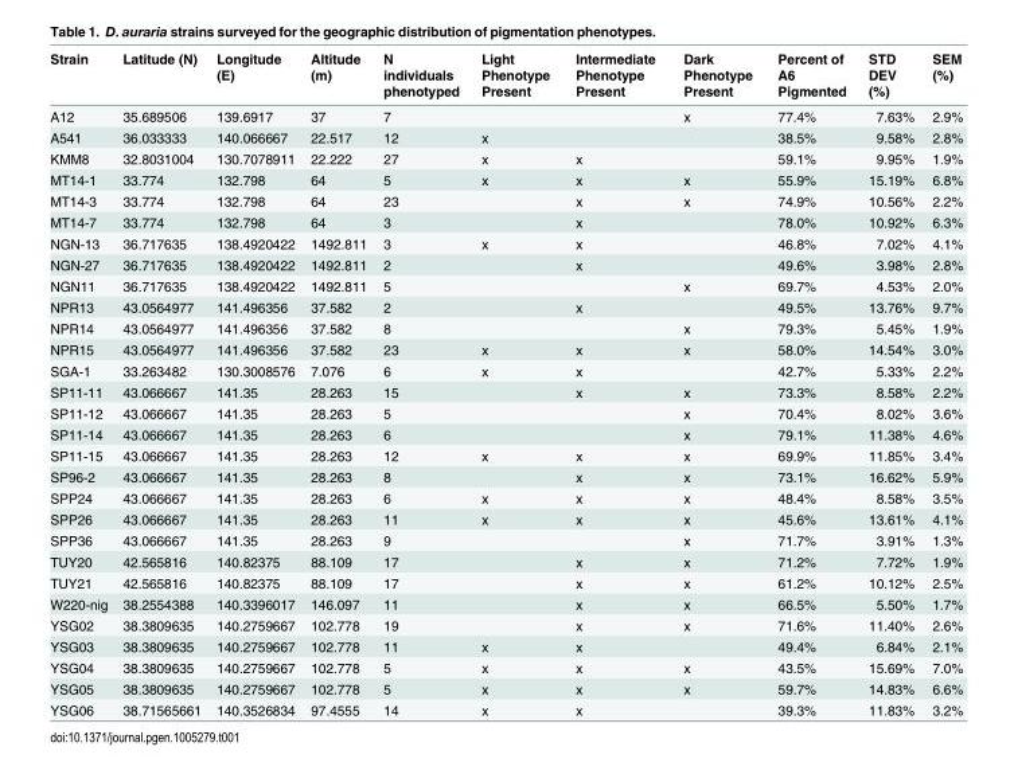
<table><thead><tr><td>Strain</td><td>Latitude (N)</td><td>Longitude (E)</td><td>Altitude (m)</td><td>N individuals phenotyped</td><td>Light Phenotype Present</td><td>Intermediate Phenotype Present</td><td>Dark Phenotype Present</td><td>Percent of A6 Pigmented</td><td>STD DEV (%)</td><td>SEM (%)</td></tr></thead><tbody><tr><td>A12</td><td>35.689506</td><td>139.6917</td><td>37</td><td>7</td><td></td><td></td><td>x</td><td>77.4%</td><td>7.63%</td><td>2.9%</td></tr><tr><td>A541</td><td>36.033333</td><td>140.066667</td><td>22.517</td><td>12</td><td>x</td><td></td><td></td><td>38.5%</td><td>9.58%</td><td>2.8%</td></tr><tr><td>KMM8</td><td>32.8031004</td><td>130.7078911</td><td>22.222</td><td>27</td><td>x</td><td>x</td><td></td><td>59.1%</td><td>9.95%</td><td>1.9%</td></tr><tr><td>MT14-1</td><td>33.774</td><td>132.798</td><td>64</td><td>5</td><td>x</td><td>x</td><td>x</td><td>55.9%</td><td>15.19%</td><td>6.8%</td></tr><tr><td>MT14-3</td><td>33.774</td><td>132.798</td><td>64</td><td>23</td><td></td><td>x</td><td>x</td><td>74.9%</td><td>10.56%</td><td>2.2%</td></tr><tr><td>MT14-7</td><td>33.774</td><td>132.798</td><td>64</td><td>3</td><td></td><td>x</td><td></td><td>78.0%</td><td>10.92%</td><td>6.3%</td></tr><tr><td>NGN-13</td><td>36.717635</td><td>138.4920422</td><td>1492.811</td><td>3</td><td>x</td><td>x</td><td></td><td>46.8%</td><td>7.02%</td><td>4.1%</td></tr><tr><td>NGN-27</td><td>36.717635</td><td>138.4920422</td><td>1492.811</td><td>2</td><td></td><td>x</td><td></td><td>49.6%</td><td>3.98%</td><td>2.8%</td></tr><tr><td>NGN11</td><td>36.717635</td><td>138.4920422</td><td>1492.811</td><td>5</td><td></td><td></td><td>x</td><td>69.7%</td><td>4.53%</td><td>2.0%</td></tr><tr><td>NPR13</td><td>43.0564977</td><td>141.496356</td><td>37.582</td><td>2</td><td></td><td>x</td><td></td><td>49.5%</td><td>13.76%</td><td>9.7%</td></tr><tr><td>NPR14</td><td>43.0564977</td><td>141.496356</td><td>37.582</td><td>8</td><td></td><td></td><td>x</td><td>79.3%</td><td>5.45%</td><td>1.9%</td></tr><tr><td>NPR15</td><td>43.0564977</td><td>141.496356</td><td>37.582</td><td>23</td><td>x</td><td>x</td><td>x</td><td>58.0%</td><td>14.54%</td><td>3.0%</td></tr><tr><td>SGA-1</td><td>33.263482</td><td>130.3008576</td><td>7.076</td><td>6</td><td>x</td><td>x</td><td></td><td>42.7%</td><td>5.33%</td><td>2.2%</td></tr><tr><td>SP11-11</td><td>43.066667</td><td>141.35</td><td>28.263</td><td>15</td><td></td><td>x</td><td>x</td><td>73.3%</td><td>8.58%</td><td>2.2%</td></tr><tr><td>SP11-12</td><td>43.066667</td><td>141.35</td><td>28.263</td><td>5</td><td></td><td></td><td>x</td><td>70.4%</td><td>8.02%</td><td>3.6%</td></tr><tr><td>SP11-14</td><td>43.066667</td><td>141.35</td><td>28.263</td><td>6</td><td></td><td></td><td>x</td><td>79.1%</td><td>11.38%</td><td>4.6%</td></tr><tr><td>SP11-15</td><td>43.066667</td><td>141.35</td><td>28.263</td><td>12</td><td>x</td><td>x</td><td>x</td><td>69.9%</td><td>11.85%</td><td>3.4%</td></tr><tr><td>SP96-2</td><td>43.066667</td><td>141.35</td><td>28.263</td><td>8</td><td></td><td>x</td><td>x</td><td>73.1%</td><td>16.62%</td><td>5.9%</td></tr><tr><td>SPP24</td><td>43.066667</td><td>141.35</td><td>28.263</td><td>6</td><td>x</td><td>x</td><td>x</td><td>48.4%</td><td>8.58%</td><td>3.5%</td></tr><tr><td>SPP26</td><td>43.066667</td><td>141.35</td><td>28.263</td><td>11</td><td>x</td><td>x</td><td>x</td><td>45.6%</td><td>13.61%</td><td>4.1%</td></tr><tr><td>SPP36</td><td>43.066667</td><td>141.35</td><td>28.263</td><td>9</td><td></td><td></td><td>x</td><td>71.7%</td><td>3.91%</td><td>1.3%</td></tr><tr><td>TUY20</td><td>42.565816</td><td>140.82375</td><td>88.109</td><td>17</td><td></td><td>x</td><td>x</td><td>71.2%</td><td>7.72%</td><td>1.9%</td></tr><tr><td>TUY21</td><td>42.565816</td><td>140.82375</td><td>88.109</td><td>17</td><td></td><td>x</td><td>x</td><td>61.2%</td><td>10.12%</td><td>2.5%</td></tr><tr><td>W220-nig</td><td>38.2554388</td><td>140.3396017</td><td>146.097</td><td>11</td><td></td><td>x</td><td>x</td><td>66.5%</td><td>5.50%</td><td>1.7%</td></tr><tr><td>YSG02</td><td>38.3809635</td><td>140.2759667</td><td>102.778</td><td>19</td><td></td><td>x</td><td>x</td><td>71.6%</td><td>11.40%</td><td>2.6%</td></tr><tr><td>YSG03</td><td>38.3809635</td><td>140.2759667</td><td>102.778</td><td>11</td><td>x</td><td>x</td><td></td><td>49.4%</td><td>6.84%</td><td>2.1%</td></tr><tr><td>YSG04</td><td>38.3809635</td><td>140.2759667</td><td>102.778</td><td>5</td><td>x</td><td>x</td><td>x</td><td>43.5%</td><td>15.69%</td><td>7.0%</td></tr><tr><td>YSG05</td><td>38.3809635</td><td>140.2759667</td><td>102.778</td><td>5</td><td>x</td><td>x</td><td>x</td><td>59.7%</td><td>14.83%</td><td>6.6%</td></tr><tr><td>YSG06</td><td>38.71565661</td><td>140.3526834</td><td>97.4555</td><td>14</td><td>x</td><td>x</td><td></td><td>39.3%</td><td>11.83%</td><td>3.2%</td></tr></tbody></table>